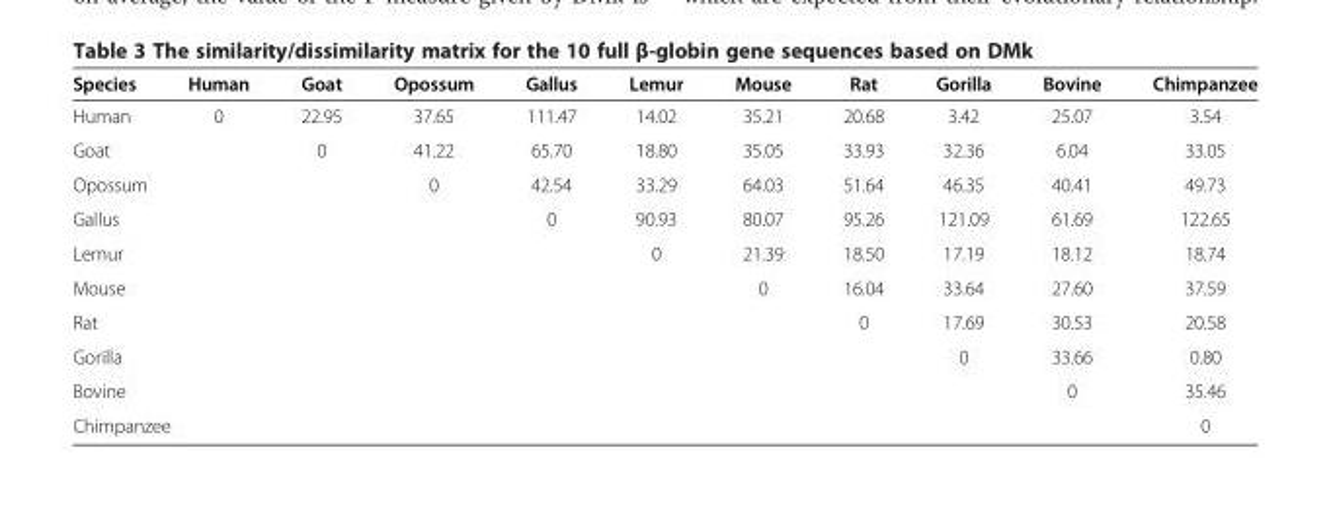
<table><thead><tr><td>Species</td><td>Human</td><td>Goat</td><td>Opossum</td><td>Gallus</td><td>Lemur</td><td>Mouse</td><td>Rat</td><td>Gorilla</td><td>Bovine</td><td>Chimpanzee</td></tr></thead><tbody><tr><td>Human</td><td>0</td><td>22.95</td><td>37.65</td><td>111.47</td><td>14.02</td><td>35.21</td><td>20.68</td><td>3.42</td><td>25.07</td><td>3.54</td></tr><tr><td>Goat</td><td></td><td>0</td><td>41.22</td><td>65.70</td><td>18.80</td><td>35.05</td><td>33.93</td><td>32.36</td><td>6.04</td><td>33.05</td></tr><tr><td colspan="2">Opossum</td><td></td><td>0</td><td>42.54</td><td>33.29</td><td>64.03</td><td>51.64</td><td>46.35</td><td>40.41</td><td>49.73</td></tr><tr><td>Gallus</td><td></td><td></td><td></td><td>0</td><td>90.93</td><td>80.07</td><td>95.26</td><td>121.09</td><td>61.69</td><td>122.65</td></tr><tr><td>Lemur</td><td></td><td></td><td></td><td></td><td>0</td><td>21.39</td><td>18.50</td><td>17.19</td><td>18.12</td><td>18.74</td></tr><tr><td>Mouse</td><td></td><td></td><td></td><td></td><td></td><td>0</td><td>16.04</td><td>33.64</td><td>27.60</td><td>37.59</td></tr><tr><td>Rat</td><td></td><td></td><td></td><td></td><td></td><td></td><td>0</td><td>17.69</td><td>30.53</td><td>20.58</td></tr><tr><td>Gorilla</td><td></td><td></td><td></td><td></td><td></td><td></td><td></td><td>0</td><td>33.66</td><td>0.80</td></tr><tr><td>Bovine</td><td></td><td></td><td></td><td></td><td></td><td></td><td></td><td></td><td>0</td><td>35.46</td></tr><tr><td colspan="2">Chimpanzee</td><td></td><td></td><td></td><td></td><td></td><td></td><td></td><td></td><td>0</td></tr></tbody></table>